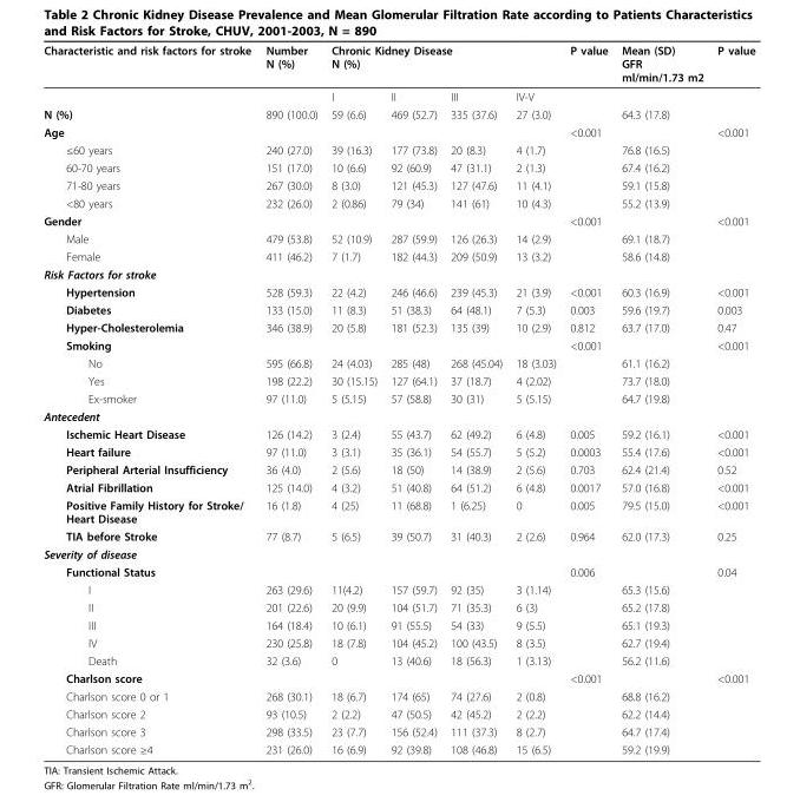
<table><thead><tr><td rowspan="2">Characteristic and risk factors for stroke</td><td rowspan="2">Number N (%)</td><td colspan="4">Chronic Kidney Disease N (%)</td><td rowspan="2">P value</td><td rowspan="2">Mean (SD) GFR ml/min/1.73 m2</td><td rowspan="2">P value</td></tr><tr><td>I</td><td>II</td><td>III</td><td>IV-V</td></tr></thead><tbody><tr><td>N (%)</td><td>890 (100.0)</td><td>59 (6.6)</td><td>469 (52.7)</td><td>335 (37.6)</td><td>27 (3.0)</td><td></td><td>64.3 (17.8)</td><td></td></tr><tr><td>Age</td><td></td><td></td><td></td><td></td><td></td><td>&lt;0.001</td><td></td><td>&lt;0.001</td></tr><tr><td>≤60 years</td><td>240 (27.0)</td><td>39 (16.3)</td><td>177 (73.8)</td><td>20 (8.3)</td><td>4 (1.7)</td><td></td><td>76.8 (16.5)</td><td></td></tr><tr><td>60-70 years</td><td>151 (17.0)</td><td>10 (6.6)</td><td>92 (60.9)</td><td>47 (31.1)</td><td>2 (1.3)</td><td></td><td>67.4 (16.2)</td><td></td></tr><tr><td>71-80 years</td><td>267 (30.0)</td><td>8 (3.0)</td><td>121 (45.3)</td><td>127 (47.6)</td><td>11 (4.1)</td><td></td><td>59.1 (15.8)</td><td></td></tr><tr><td>&lt;80 years</td><td>232 (26.0)</td><td>2 (0.86)</td><td>79 (34)</td><td>141 (61)</td><td>10 (4.3)</td><td></td><td>55.2 (13.9)</td><td></td></tr><tr><td>Gender</td><td></td><td></td><td></td><td></td><td></td><td>&lt;0.001</td><td></td><td>&lt;0.001</td></tr><tr><td>Male</td><td>479 (53.8)</td><td>52 (10.9)</td><td>287 (59.9)</td><td>126 (26.3)</td><td>14 (2.9)</td><td></td><td>69.1 (18.7)</td><td></td></tr><tr><td>Female</td><td>411 (46.2)</td><td>7 (1.7)</td><td>182 (44.3)</td><td>209 (50.9)</td><td>13 (3.2)</td><td></td><td>58.6 (14.8)</td><td></td></tr><tr><td colspan="9">Risk Factors for stroke</td></tr><tr><td>Hypertension</td><td>528 (59.3)</td><td>22 (4.2)</td><td>246 (46.6)</td><td>239 (45.3)</td><td>21 (3.9)</td><td>&lt;0.001</td><td>60.3 (16.9)</td><td>&lt;0.001</td></tr><tr><td>Diabetes</td><td>133 (15.0)</td><td>11 (8.3)</td><td>51 (38.3)</td><td>64 (48.1)</td><td>7 (5.3)</td><td>0.003</td><td>59.6 (19.7)</td><td>0.003</td></tr><tr><td>Hyper-Cholesterolemia</td><td>346 (38.9)</td><td>20 (5.8)</td><td>181 (52.3)</td><td>135 (39)</td><td>10 (2.9)</td><td>0.812</td><td>63.7 (17.0)</td><td>0.47</td></tr><tr><td>Smoking</td><td></td><td></td><td></td><td></td><td></td><td>&lt;0.001</td><td></td><td>&lt;0.001</td></tr><tr><td>No</td><td>595 (66.8)</td><td>24 (4.03)</td><td>285 (48)</td><td>268 (45.04)</td><td>18 (3.03)</td><td></td><td>61.1 (16.2)</td><td></td></tr><tr><td>Yes</td><td>198 (22.2)</td><td>30 (15.15)</td><td>127 (64.1)</td><td>37 (18.7)</td><td>4 (2.02)</td><td></td><td>73.7 (18.0)</td><td></td></tr><tr><td>Ex-smoker</td><td>97 (11.0)</td><td>5 (5.15)</td><td>57 (58.8)</td><td>30 (31)</td><td>5 (5.15)</td><td></td><td>64.7 (19.8)</td><td></td></tr><tr><td colspan="9">Antecedent</td></tr><tr><td>Ischemic Heart Disease</td><td>126 (14.2)</td><td>3 (2.4)</td><td>55 (43.7)</td><td>62 (49.2)</td><td>6 (4.8)</td><td>0.005</td><td>59.2 (16.1)</td><td>&lt;0.001</td></tr><tr><td>Heart failure</td><td>97 (11.0)</td><td>3 (3.1)</td><td>35 (36.1)</td><td>54 (55.7)</td><td>5 (5.2)</td><td>0.0003</td><td>55.4 (17.6)</td><td>&lt;0.001</td></tr><tr><td>Peripheral Arterial Insufficiency</td><td>36 (4.0)</td><td>2 (5.6)</td><td>18 (50)</td><td>14 (38.9)</td><td>2 (5.6)</td><td>0.703</td><td>62.4 (21.4)</td><td>0.52</td></tr><tr><td>Atrial Fibrillation</td><td>125 (14.0)</td><td>4 (3.2)</td><td>51 (40.8)</td><td>64 (51.2)</td><td>6 (4.8)</td><td>0.0017</td><td>57.0 (16.8)</td><td>&lt;0.001</td></tr><tr><td>Positive Family History for Stroke/ Heart Disease</td><td>16 (1.8)</td><td>4 (25)</td><td>11 (68.8)</td><td>1 (6.25)</td><td>0</td><td>0.005</td><td>79.5 (15.0)</td><td>&lt;0.001</td></tr><tr><td>TIA before Stroke</td><td>77 (8.7)</td><td>5 (6.5)</td><td>39 (50.7)</td><td>31 (40.3)</td><td>2 (2.6)</td><td>0.964</td><td>62.0 (17.3)</td><td>0.25</td></tr><tr><td colspan="9">Severity of disease</td></tr><tr><td>Functional Status</td><td></td><td></td><td></td><td></td><td></td><td>0.006</td><td></td><td>0.04</td></tr><tr><td>I</td><td>263 (29.6)</td><td>11(4.2)</td><td>157 (59.7)</td><td>92 (35)</td><td>3 (1.14)</td><td></td><td>65.3 (15.6)</td><td></td></tr><tr><td>II</td><td>201 (22.6)</td><td>20 (9.9)</td><td>104 (51.7)</td><td>71 (35.3)</td><td>6 (3)</td><td></td><td>65.2 (17.8)</td><td></td></tr><tr><td>III</td><td>164 (18.4)</td><td>10 (6.1)</td><td>91 (55.5)</td><td>54 (33)</td><td>9 (5.5)</td><td></td><td>65.1 (19.3)</td><td></td></tr><tr><td>IV</td><td>230 (25.8)</td><td>18 (7.8)</td><td>104 (45.2)</td><td>100 (43.5)</td><td>8 (3.5)</td><td></td><td>62.7 (19.4)</td><td></td></tr><tr><td>Death</td><td>32 (3.6)</td><td>0</td><td>13 (40.6)</td><td>18 (56.3)</td><td>1 (3.13)</td><td></td><td>56.2 (11.6)</td><td></td></tr><tr><td>Charlson score</td><td></td><td></td><td></td><td></td><td></td><td>&lt;0.001</td><td></td><td>&lt;0.001</td></tr><tr><td>Charlson score 0 or 1</td><td>268 (30.1)</td><td>18 (6.7)</td><td>174 (65)</td><td>74 (27.6)</td><td>2 (0.8)</td><td></td><td>68.8 (16.2)</td><td></td></tr><tr><td>Charlson score 2</td><td>93 (10.5)</td><td>2 (2.2)</td><td>47 (50.5)</td><td>42 (45.2)</td><td>2 (2.2)</td><td></td><td>62.2 (14.4)</td><td></td></tr><tr><td>Charlson score 3</td><td>298 (33.5)</td><td>23 (7.7)</td><td>156 (52.4)</td><td>111 (37.3)</td><td>8 (2.7)</td><td></td><td>64.7 (17.4)</td><td></td></tr><tr><td>Charlson score ≥4</td><td>231 (26.0)</td><td>16 (6.9)</td><td>92 (39.8)</td><td>108 (46.8)</td><td>15 (6.5)</td><td></td><td>59.2 (19.9)</td><td></td></tr></tbody></table>